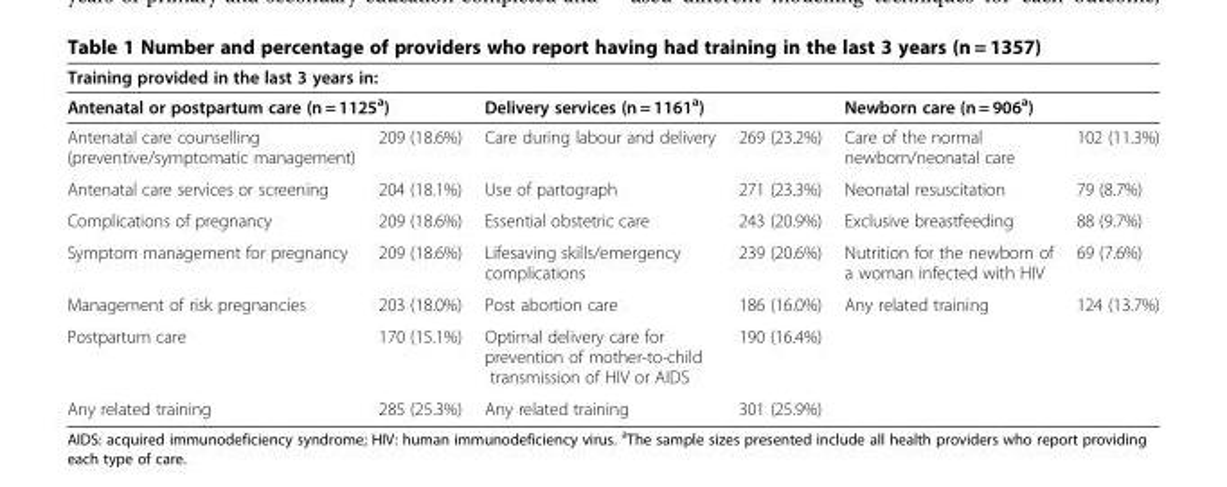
<table><thead><tr><td colspan="6">Training provided in the last 3 years in:</td></tr><tr><td colspan="2">Antenatal or postpartum care (n = 1125<sup>a</sup>)</td><td colspan="2">Delivery services (n = 1161<sup>a</sup>)</td><td colspan="2">Newborn care (n = 906<sup>a</sup>)</td></tr><tr><td>Antenatal care counselling (preventive/symptomatic management)</td><td>209 (18.6%)</td><td>Care during labour and delivery</td><td>269 (23.2%)</td><td>Care of the normal newborn/neonatal care</td><td>102 (11.3%)</td></tr></thead><tbody><tr><td>Antenatal care services or screening</td><td>204 (18.1%)</td><td>Use of partograph</td><td>271 (23.3%)</td><td>Neonatal resuscitation</td><td>79 (8.7%)</td></tr><tr><td>Complications of pregnancy</td><td>209 (18.6%)</td><td>Essential obstetric care</td><td>243 (20.9%)</td><td>Exclusive breastfeeding</td><td>88 (9.7%)</td></tr><tr><td>Symptom management for pregnancy</td><td>209 (18.6%)</td><td>Lifesaving skills/emergency complications</td><td>239 (20.6%)</td><td>Nutrition for the newborn of a woman infected with HIV</td><td>69 (7.6%)</td></tr><tr><td>Management of risk pregnancies</td><td>203 (18.0%)</td><td>Post abortion care</td><td>186 (16.0%)</td><td>Any related training</td><td>124 (13.7%)</td></tr><tr><td>Postpartum care</td><td>170 (15.1%)</td><td>Optimal delivery care for prevention of mother-to-child transmission of HIV or AIDS</td><td>190 (16.4%)</td><td></td><td></td></tr><tr><td>Any related training</td><td>285 (25.3%)</td><td>Any related training</td><td>301 (25.9%)</td><td></td><td></td></tr></tbody></table>